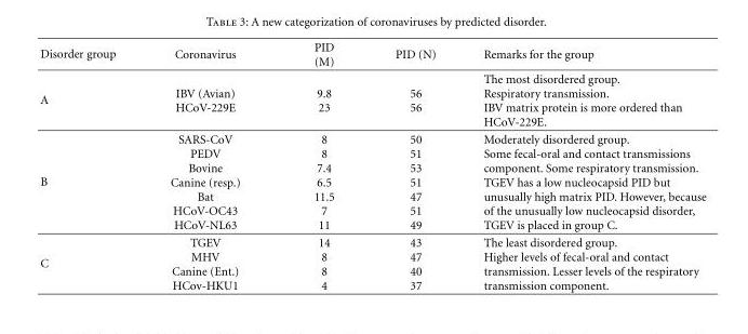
<table><thead><tr><td>Disorder group</td><td>Coronavirus</td><td>PID (M)</td><td>PID (N)</td><td>Remarks for the group</td></tr></thead><tbody><tr><td>A</td><td>IBV (Avian) HCoV-229E</td><td>9.8 23</td><td>56 56</td><td>The most disordered group. Respiratory transmission. IBV matrix protein is more ordered than HCoV-229E.</td></tr><tr><td>B</td><td>SARS-CoV PEDV Bovine Canine (resp.) Bat HCoV-OC43 HCoV-NL63</td><td>8 8 7.4 6.5 11.5 7 11</td><td>50 51 53 51 47 51 49</td><td>Moderately disordered group. Some fecal-oral and contact transmissions component. Some respiratory transmission. TGEV has a low nucleocapsid PID but unusually high matrix PID. However, because of the unusually low nucleocapsid disorder, TGEV is placed in group C.</td></tr><tr><td>C</td><td>TGEV MHV Canine (Ent.) HCov-HKU1</td><td>14 8 8 4</td><td>43 47 40 37</td><td>The least disordered group. Higher levels of fecal-oral and contact transmission. Lesser levels of the respiratory transmission component.</td></tr></tbody></table>